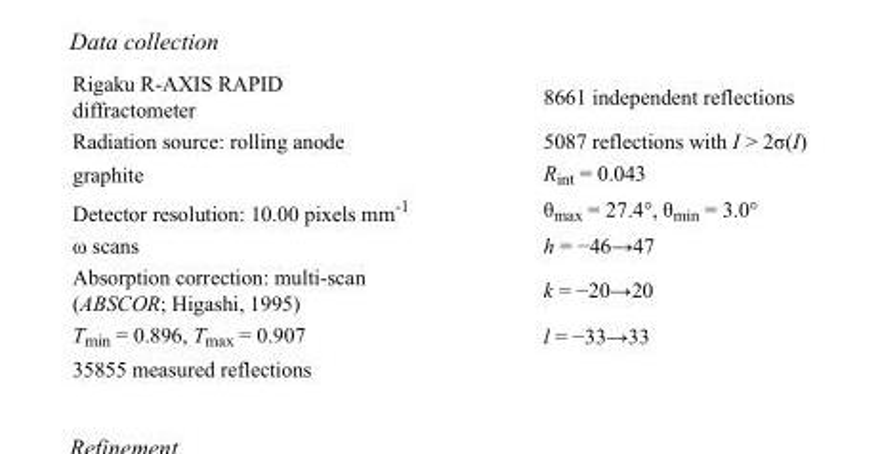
<table><tbody><tr><td>Rigaku R-AXIS RAPID diffractometer</td><td>8661 independent reflections</td></tr><tr><td>Radiation source: rolling anode</td><td>5087 reflections with I &gt; 2σ(I)</td></tr><tr><td>graphite</td><td>R<sub>int</sub> = 0.043</td></tr><tr><td>Detector resolution: 10.00 pixels mm<sup>-1</sup></td><td>θ<sub>max</sub> = 27.4°, θ<sub>min</sub> = 3.0°</td></tr><tr><td>ω scans</td><td>h = −46→47</td></tr><tr><td>Absorption correction: multi-scan (ABSCOR; Higashi, 1995)</td><td>k = −20→20</td></tr><tr><td>T<sub>min</sub> = 0.896, T<sub>max</sub> = 0.907</td><td>l = −33→33</td></tr><tr><td>35855 measured reflections</td><td></td></tr></tbody></table>